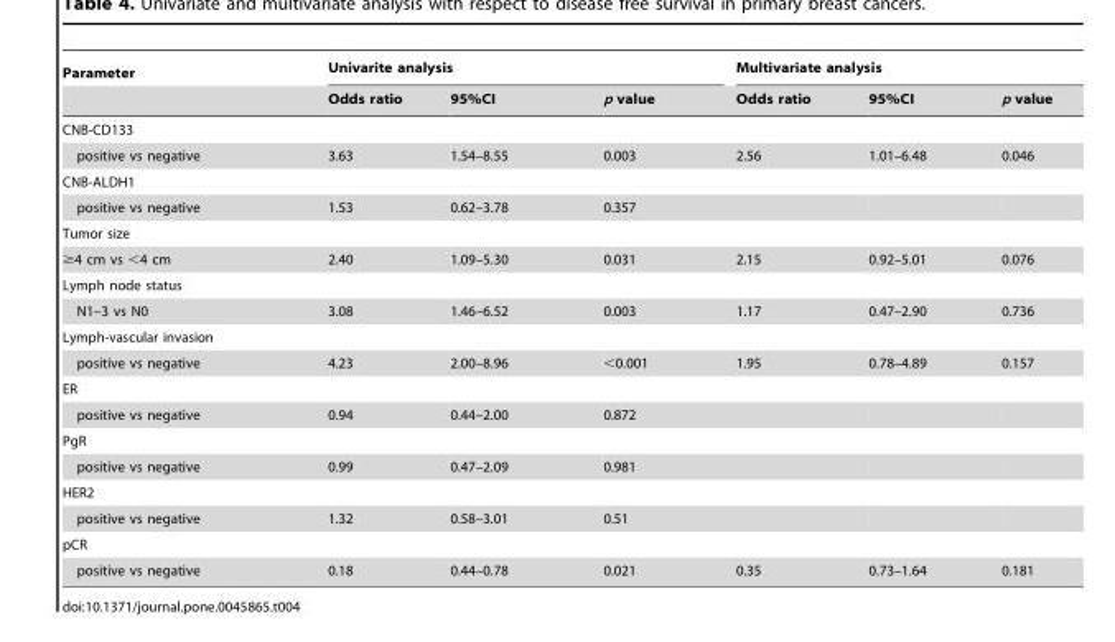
<table><thead><tr><td rowspan="2">Parameter</td><td colspan="3">Univarite analysis</td><td colspan="3">Multivariate analysis</td></tr><tr><td>Odds ratio</td><td>95%CI</td><td>p value</td><td>Odds ratio</td><td>95%CI</td><td>p value</td></tr></thead><tbody><tr><td colspan="7">CNB-CD133</td></tr><tr><td>positive vs negative</td><td>3.63</td><td>1.54–8.55</td><td>0.003</td><td>2.56</td><td>1.01–6.48</td><td>0.046</td></tr><tr><td colspan="7">CNB-ALDH1</td></tr><tr><td>positive vs negative</td><td>1.53</td><td>0.62–3.78</td><td>0.357</td><td></td><td></td><td></td></tr><tr><td colspan="7">Tumor size</td></tr><tr><td>≥4 cm vs &lt;4 cm</td><td>2.40</td><td>1.09–5.30</td><td>0.031</td><td>2.15</td><td>0.92–5.01</td><td>0.076</td></tr><tr><td colspan="7">Lymph node status</td></tr><tr><td>N1–3 vs N0</td><td>3.08</td><td>1.46–6.52</td><td>0.003</td><td>1.17</td><td>0.47–2.90</td><td>0.736</td></tr><tr><td colspan="7">Lymph-vascular invasion</td></tr><tr><td>positive vs negative</td><td>4.23</td><td>2.00–8.96</td><td>&lt;0.001</td><td>1.95</td><td>0.78–4.89</td><td>0.157</td></tr><tr><td colspan="7">ER</td></tr><tr><td>positive vs negative</td><td>0.94</td><td>0.44–2.00</td><td>0.872</td><td></td><td></td><td></td></tr><tr><td colspan="7">PgR</td></tr><tr><td>positive vs negative</td><td>0.99</td><td>0.47–2.09</td><td>0.981</td><td></td><td></td><td></td></tr><tr><td colspan="7">HER2</td></tr><tr><td>positive vs negative</td><td>1.32</td><td>0.58–3.01</td><td>0.51</td><td></td><td></td><td></td></tr><tr><td colspan="7">pCR</td></tr><tr><td>positive vs negative</td><td>0.18</td><td>0.44–0.78</td><td>0.021</td><td>0.35</td><td>0.73–1.64</td><td>0.181</td></tr></tbody></table>